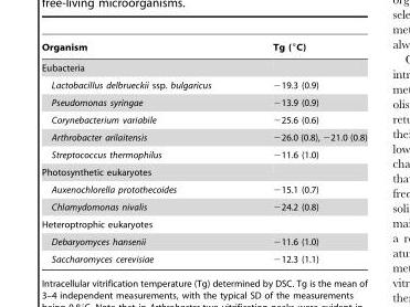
<table><thead><tr><td>Organism</td><td>Tg (°C)</td></tr></thead><tbody><tr><td colspan="2">Eubacteria</td></tr><tr><td>Lactobacillus delbrueckii ssp. bulgaricus</td><td>−19.3 (0.9)</td></tr><tr><td>Pseudomonas syringae</td><td>−13.9 (0.9)</td></tr><tr><td>Corynebacterium variabile</td><td>−25.6 (0.6)</td></tr><tr><td>Arthrobacter arilaitensis</td><td>−26.0 (0.8), −21.0 (0.8)</td></tr><tr><td>Streptococcus thermophilus</td><td>−11.6 (1.0)</td></tr><tr><td colspan="2">Photosynthetic eukaryotes</td></tr><tr><td>Auxenochlorella protothecoides</td><td>−15.1 (0.7)</td></tr><tr><td>Chlamydomonas nivalis</td><td>−24.2 (0.8)</td></tr><tr><td colspan="2">Heteroptrophic eukaryotes</td></tr><tr><td>Debaryomyces hansenii</td><td>−11.6 (1.0)</td></tr><tr><td>Saccharomyces cerevisiae</td><td>−12.3 (1.1)</td></tr></tbody></table>